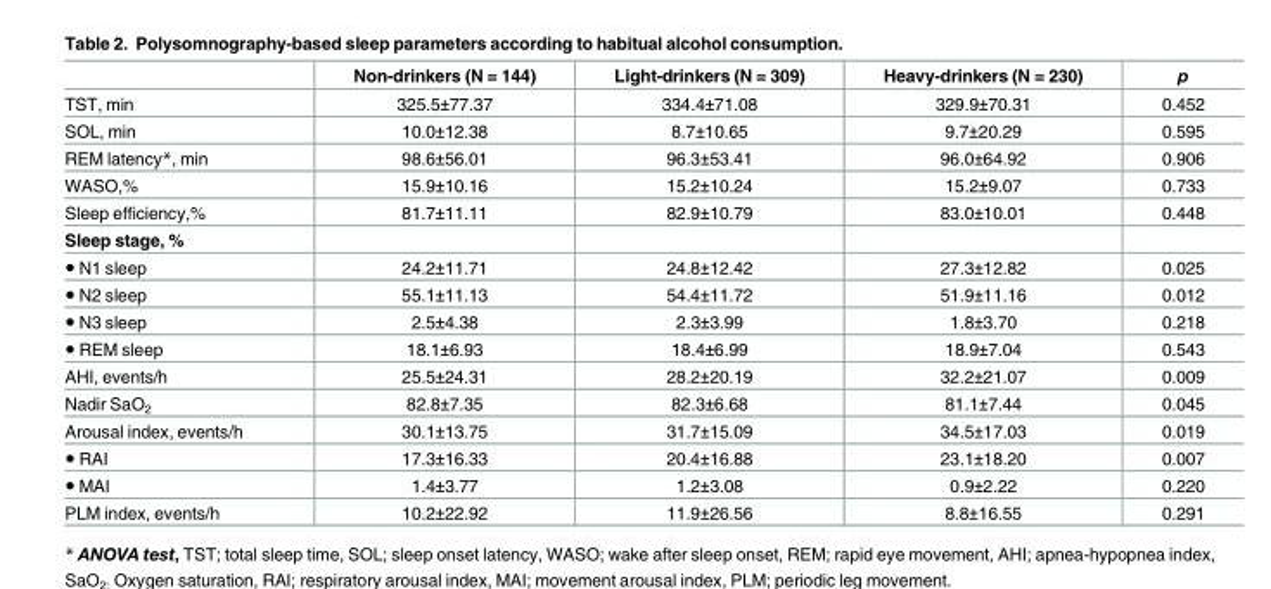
<table><thead><tr><td></td><td>Non-drinkers (N = 144)</td><td>Light-drinkers (N = 309)</td><td>Heavy-drinkers (N = 230)</td><td>p</td></tr></thead><tbody><tr><td>TST, min</td><td>325.5±77.37</td><td>334.4±71.08</td><td>329.9±70.31</td><td>0.452</td></tr><tr><td>SOL, min</td><td>10.0±12.38</td><td>8.7±10.65</td><td>9.7±20.29</td><td>0.595</td></tr><tr><td>REM latency*, min</td><td>98.6±56.01</td><td>96.3±53.41</td><td>96.0±64.92</td><td>0.906</td></tr><tr><td>WASO,%</td><td>15.9±10.16</td><td>15.2±10.24</td><td>15.2±9.07</td><td>0.733</td></tr><tr><td>Sleep efficiency,%</td><td>81.7±11.11</td><td>82.9±10.79</td><td>83.0±10.01</td><td>0.448</td></tr><tr><td colspan="5">Sleep stage, %</td></tr><tr><td>● N1 sleep</td><td>24.2±11.71</td><td>24.8±12.42</td><td>27.3±12.82</td><td>0.025</td></tr><tr><td>● N2 sleep</td><td>55.1±11.13</td><td>54.4±11.72</td><td>51.9±11.16</td><td>0.012</td></tr><tr><td>● N3 sleep</td><td>2.5±4.38</td><td>2.3±3.99</td><td>1.8±3.70</td><td>0.218</td></tr><tr><td>● REM sleep</td><td>18.1±6.93</td><td>18.4±6.99</td><td>18.9±7.04</td><td>0.543</td></tr><tr><td>AHI, events/h</td><td>25.5±24.31</td><td>28.2±20.19</td><td>32.2±21.07</td><td>0.009</td></tr><tr><td>Nadir SaO<sub>2</sub></td><td>82.8±7.35</td><td>82.3±6.68</td><td>81.1±7.44</td><td>0.045</td></tr><tr><td>Arousal index, events/h</td><td>30.1±13.75</td><td>31.7±15.09</td><td>34.5±17.03</td><td>0.019</td></tr><tr><td>● RAI</td><td>17.3±16.33</td><td>20.4±16.88</td><td>23.1±18.20</td><td>0.007</td></tr><tr><td>● MAI</td><td>1.4±3.77</td><td>1.2±3.08</td><td>0.9±2.22</td><td>0.220</td></tr><tr><td>PLM index, events/h</td><td>10.2±22.92</td><td>11.9±26.56</td><td>8.8±16.55</td><td>0.291</td></tr></tbody></table>